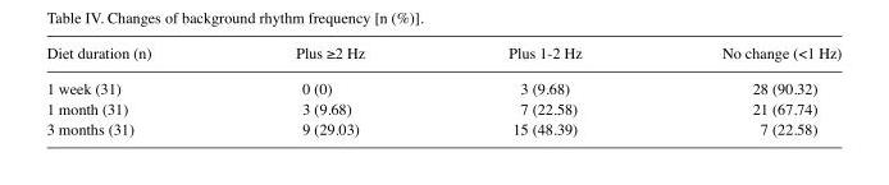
<table><thead><tr><td>Diet duration (n)</td><td>Plus ≥2 Hz</td><td>Plus 1-2 Hz</td><td>No change (&lt;1 Hz)</td></tr></thead><tbody><tr><td>1 week (31)</td><td>0 (0)</td><td>3 (9.68)</td><td>28 (90.32)</td></tr><tr><td>1 month (31)</td><td>3 (9.68)</td><td>7 (22.58)</td><td>21 (67.74)</td></tr><tr><td>3 months (31)</td><td>9 (29.03)</td><td>15 (48.39)</td><td>7 (22.58)</td></tr></tbody></table>